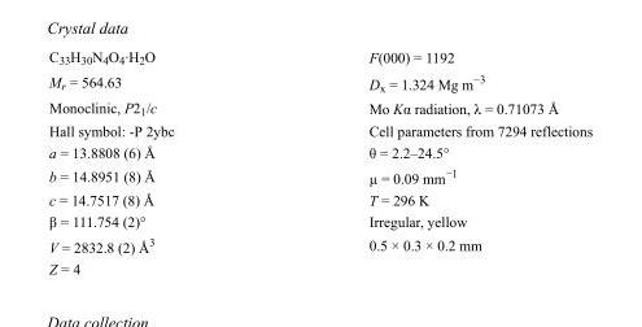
<table><tbody><tr><td>C<sub>33</sub>H<sub>30</sub>N<sub>4</sub>O<sub>4</sub>·H<sub>2</sub>O</td><td>F(000) = 1192</td></tr><tr><td>M<sub>r</sub> = 564.63</td><td>D<sub>x</sub> = 1.324 Mg m<sup>−3</sup></td></tr><tr><td>Monoclinic, P2<sub>1</sub>/c</td><td>Mo Kα radiation, λ = 0.71073 Å</td></tr><tr><td>Hall symbol: -P 2ybc</td><td>Cell parameters from 7294 reflections</td></tr><tr><td>a = 13.8808 (6) Å</td><td>θ = 2.2–24.5°</td></tr><tr><td>b = 14.8951 (8) Å</td><td>µ = 0.09 mm<sup>−1</sup></td></tr><tr><td>c = 14.7517 (8) Å</td><td>T = 296 K</td></tr><tr><td>β = 111.754 (2)°</td><td>Irregular, yellow</td></tr><tr><td>V = 2832.8 (2) Å<sup>3</sup></td><td>0.5 × 0.3 × 0.2 mm</td></tr><tr><td>Z = 4</td><td></td></tr></tbody></table>